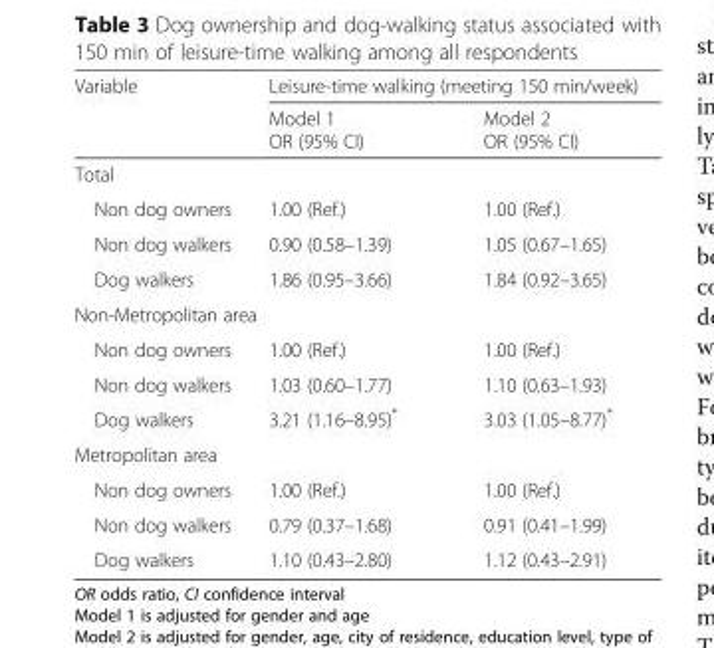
<table><thead><tr><td rowspan="2">Variable</td><td colspan="2">Leisure-time walking (meeting 150 min/week)</td></tr><tr><td>Model 1 OR (95% CI)</td><td>Model 2 OR (95% CI)</td></tr></thead><tbody><tr><td colspan="3">Total</td></tr><tr><td>Non dog owners</td><td>1.00 (Ref.)</td><td>1.00 (Ref.)</td></tr><tr><td>Non dog walkers</td><td>0.90 (0.58–1.39)</td><td>1.05 (0.67–1.65)</td></tr><tr><td>Dog walkers</td><td>1.86 (0.95–3.66)</td><td>1.84 (0.92–3.65)</td></tr><tr><td colspan="3">Non-Metropolitan area</td></tr><tr><td>Non dog owners</td><td>1.00 (Ref.)</td><td>1.00 (Ref.)</td></tr><tr><td>Non dog walkers</td><td>1.03 (0.60–1.77)</td><td>1.10 (0.63–1.93)</td></tr><tr><td>Dog walkers</td><td>3.21 (1.16–8.95)*</td><td>3.03 (1.05–8.77)*</td></tr><tr><td colspan="3">Metropolitan area</td></tr><tr><td>Non dog owners</td><td>1.00 (Ref.)</td><td>1.00 (Ref.)</td></tr><tr><td>Non dog walkers</td><td>0.79 (0.37–1.68)</td><td>0.91 (0.41–1.99)</td></tr><tr><td>Dog walkers</td><td>1.10 (0.43–2.80)</td><td>1.12 (0.43–2.91)</td></tr></tbody></table>